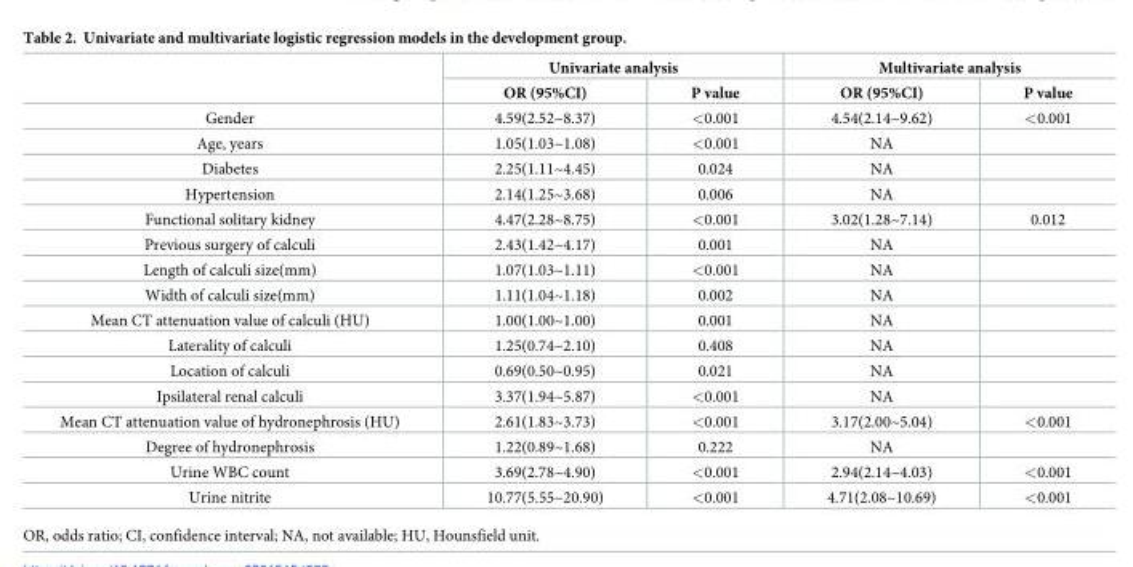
<table><thead><tr><td rowspan="2"></td><td colspan="2">Univariate analysis</td><td colspan="2">Multivariate analysis</td></tr><tr><td>OR (95%CI)</td><td>P value</td><td>OR (95%CI)</td><td>P value</td></tr></thead><tbody><tr><td>Gender</td><td>4.59(2.52~8.37)</td><td>&lt;0.001</td><td>4.54(2.14~9.62)</td><td>&lt;0.001</td></tr><tr><td>Age, years</td><td>1.05(1.03~1.08)</td><td>&lt;0.001</td><td>NA</td><td></td></tr><tr><td>Diabetes</td><td>2.25(1.11~4.45)</td><td>0.024</td><td>NA</td><td></td></tr><tr><td>Hypertension</td><td>2.14(1.25~3.68)</td><td>0.006</td><td>NA</td><td></td></tr><tr><td>Functional solitary kidney</td><td>4.47(2.28~8.75)</td><td>&lt;0.001</td><td>3.02(1.28~7.14)</td><td>0.012</td></tr><tr><td>Previous surgery of calculi</td><td>2.43(1.42~4.17)</td><td>0.001</td><td>NA</td><td></td></tr><tr><td>Length of calculi size(mm)</td><td>1.07(1.03~1.11)</td><td>&lt;0.001</td><td>NA</td><td></td></tr><tr><td>Width of calculi size(mm)</td><td>1.11(1.04~1.18)</td><td>0.002</td><td>NA</td><td></td></tr><tr><td>Mean CT attenuation value of calculi (HU)</td><td>1.00(1.00~1.00)</td><td>0.001</td><td>NA</td><td></td></tr><tr><td>Laterality of calculi</td><td>1.25(0.74~2.10)</td><td>0.408</td><td>NA</td><td></td></tr><tr><td>Location of calculi</td><td>0.69(0.50~0.95)</td><td>0.021</td><td>NA</td><td></td></tr><tr><td>Ipsilateral renal calculi</td><td>3.37(1.94~5.87)</td><td>&lt;0.001</td><td>NA</td><td></td></tr><tr><td>Mean CT attenuation value of hydronephrosis (HU)</td><td>2.61(1.83~3.73)</td><td>&lt;0.001</td><td>3.17(2.00~5.04)</td><td>&lt;0.001</td></tr><tr><td>Degree of hydronephrosis</td><td>1.22(0.89~1.68)</td><td>0.222</td><td>NA</td><td></td></tr><tr><td>Urine WBC count</td><td>3.69(2.78~4.90)</td><td>&lt;0.001</td><td>2.94(2.14~4.03)</td><td>&lt;0.001</td></tr><tr><td>Urine nitrite</td><td>10.77(5.55~20.90)</td><td>&lt;0.001</td><td>4.71(2.08~10.69)</td><td>&lt;0.001</td></tr></tbody></table>